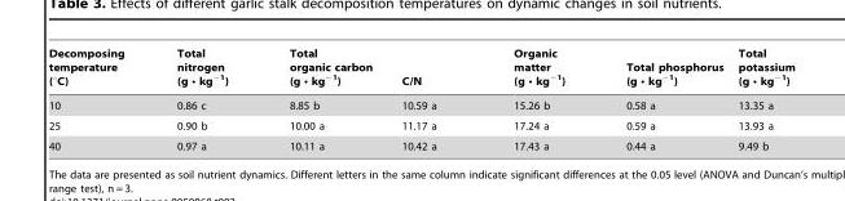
<table><thead><tr><td>Decomposing temperature (°C)</td><td>Total nitrogen (g • kg<sup>−1</sup>)</td><td>Total organic carbon (g • kg<sup>−1</sup>)</td><td>C/N</td><td>Organic matter (g • kg<sup>−1</sup>)</td><td>Total phosphorus (g • kg<sup>−1</sup>)</td><td>Total potassium (g • kg<sup>−1</sup>)</td></tr></thead><tbody><tr><td>10</td><td>0.86 c</td><td>8.85 b</td><td>10.59 a</td><td>15.26 b</td><td>0.58 a</td><td>13.35 a</td></tr><tr><td>25</td><td>0.90 b</td><td>10.00 a</td><td>11.17 a</td><td>17.24 a</td><td>0.59 a</td><td>13.93 a</td></tr><tr><td>40</td><td>0.97 a</td><td>10.11 a</td><td>10.42 a</td><td>17.43 a</td><td>0.44 a</td><td>9.49 b</td></tr></tbody></table>